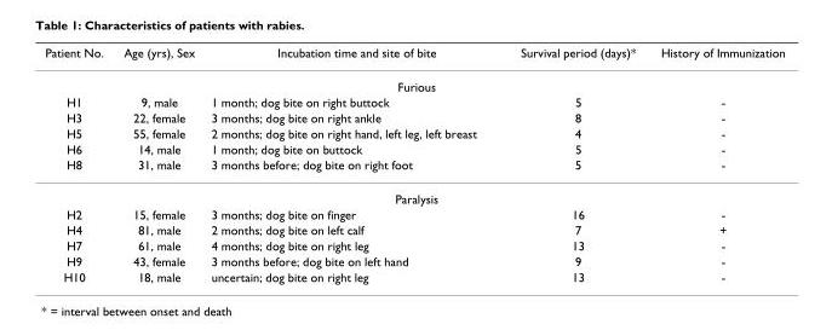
<table><thead><tr><td>Patient No.</td><td>Age (yrs), Sex</td><td>Incubation time and site of bite</td><td>Survival period (days)*</td><td>History of Immunization</td></tr></thead><tbody><tr><td colspan="5">Furious</td></tr><tr><td>H1</td><td>9, male</td><td>1 month; dog bite on right buttock</td><td>5</td><td>-</td></tr><tr><td>H3</td><td>22, female</td><td>3 months; dog bite on right ankle</td><td>8</td><td>-</td></tr><tr><td>H5</td><td>55, female</td><td>2 months; dog bite on right hand, left leg, left breast</td><td>4</td><td>-</td></tr><tr><td>H6</td><td>14, male</td><td>1 month; dog bite on buttock</td><td>5</td><td>-</td></tr><tr><td>H8</td><td>31, male</td><td>3 months before; dog bite on right foot</td><td>5</td><td>-</td></tr><tr><td colspan="5">Paralysis</td></tr><tr><td>H2</td><td>15, female</td><td>3 months; dog bite on finger</td><td>16</td><td>-</td></tr><tr><td>H4</td><td>81, male</td><td>2 months; dog bite on left calf</td><td>7</td><td>+</td></tr><tr><td>H7</td><td>61, male</td><td>4 months; dog bite on right leg</td><td>13</td><td>-</td></tr><tr><td>H9</td><td>43, female</td><td>3 months before; dog bite on left hand</td><td>9</td><td>-</td></tr><tr><td>H10</td><td>18, male</td><td>uncertain; dog bite on right leg</td><td>13</td><td>-</td></tr></tbody></table>